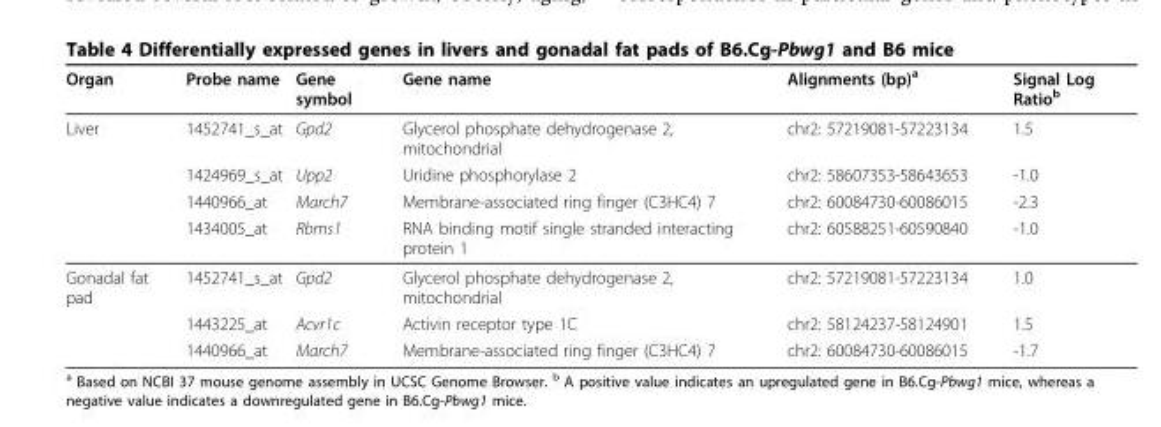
<table><thead><tr><td>Organ</td><td>Probe name</td><td>Gene symbol</td><td>Gene name</td><td>Alignments (bp)<sup>a</sup></td><td>Signal Log Ratio<sup>b</sup></td></tr></thead><tbody><tr><td rowspan="4">Liver</td><td>1452741_s_at</td><td>Gpd2</td><td>Glycerol phosphate dehydrogenase 2, mitochondrial</td><td>chr2: 57219081-57223134</td><td>1.5</td></tr><tr><td>1424969_s_at</td><td>Upp2</td><td>Uridine phosphorylase 2</td><td>chr2: 58607353-58643653</td><td>-1.0</td></tr><tr><td>1440966_at</td><td>March7</td><td>Membrane-associated ring finger (C3HC4) 7</td><td>chr2: 60084730-60086015</td><td>-2.3</td></tr><tr><td>1434005_at</td><td>Rbms1</td><td>RNA binding motif single stranded interacting protein 1</td><td>chr2: 60588251-60590840</td><td>-1.0</td></tr><tr><td rowspan="3">Gonadal fat pad</td><td>1452741_s_at</td><td>Gpd2</td><td>Glycerol phosphate dehydrogenase 2, mitochondrial</td><td>chr2: 57219081-57223134</td><td>1.0</td></tr><tr><td>1443225_at</td><td>Acvr1c</td><td>Activin receptor type 1C</td><td>chr2: 58124237-58124901</td><td>1.5</td></tr><tr><td>1440966_at</td><td>March7</td><td>Membrane-associated ring finger (C3HC4) 7</td><td>chr2: 60084730-60086015</td><td>-1.7</td></tr></tbody></table>